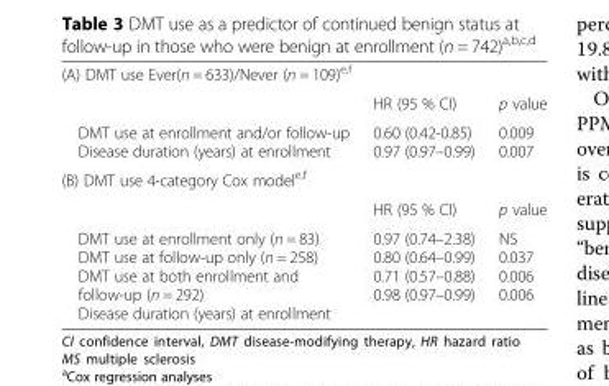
<table><tbody><tr><td colspan="3">(A) DMT use Ever(n = 633)/Never (n = 109)<sup>e,f</sup></td></tr><tr><td></td><td>HR (95 % CI)</td><td>p value</td></tr><tr><td>DMT use at enrollment and/or follow-up Disease duration (years) at enrollment</td><td>0.60 (0.42-0.85) 0.97 (0.97–0.99)</td><td>0.009 0.007</td></tr><tr><td colspan="3">(B) DMT use 4-category Cox model<sup>e,f</sup></td></tr><tr><td></td><td>HR (95 % CI)</td><td>p value</td></tr><tr><td>DMT use at enrollment only (n = 83) DMT use at follow-up only (n = 258) DMT use at both enrollment and follow-up (n = 292) Disease duration (years) at enrollment</td><td>0.97 (0.74–2.38) 0.80 (0.64–0.99) 0.71 (0.57–0.88) 0.98 (0.97–0.99)</td><td>NS 0.037 0.006 0.006</td></tr></tbody></table>